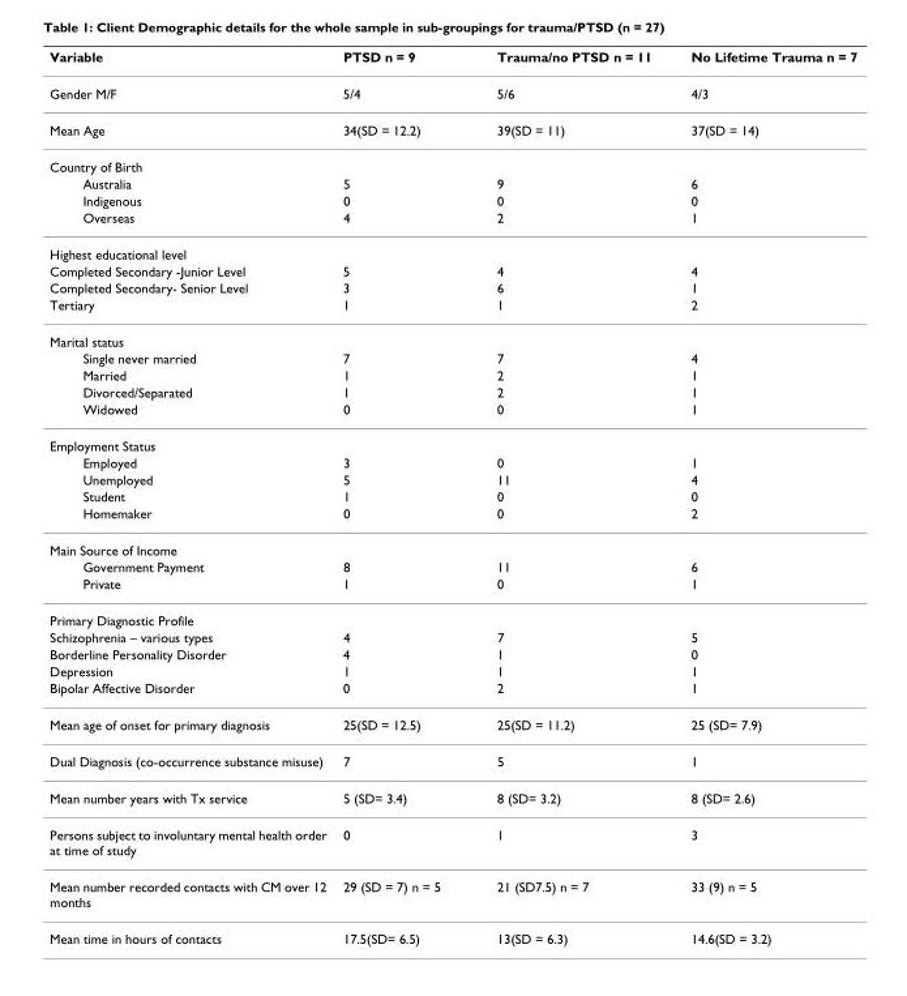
<table><thead><tr><td>Variable</td><td>PTSD n = 9</td><td>Trauma/no PTSD n = 11</td><td>No Lifetime Trauma n = 7</td></tr></thead><tbody><tr><td>Gender M/F</td><td>5/4</td><td>5/6</td><td>4/3</td></tr><tr><td>Mean Age</td><td>34(SD = 12.2)</td><td>39(SD = 11)</td><td>37(SD = 14)</td></tr><tr><td colspan="4">Country of Birth</td></tr><tr><td>Australia</td><td>5</td><td>9</td><td>6</td></tr><tr><td>Indigenous</td><td>0</td><td>0</td><td>0</td></tr><tr><td>Overseas</td><td>4</td><td>2</td><td>1</td></tr><tr><td colspan="4">Highest educational level</td></tr><tr><td>Completed Secondary -Junior Level</td><td>5</td><td>4</td><td>4</td></tr><tr><td>Completed Secondary- Senior Level</td><td>3</td><td>6</td><td>1</td></tr><tr><td>Tertiary</td><td>1</td><td>1</td><td>2</td></tr><tr><td colspan="4">Marital status</td></tr><tr><td>Single never married</td><td>7</td><td>7</td><td>4</td></tr><tr><td>Married</td><td>1</td><td>2</td><td>1</td></tr><tr><td>Divorced/Separated</td><td>1</td><td>2</td><td>1</td></tr><tr><td>Widowed</td><td>0</td><td>0</td><td>1</td></tr><tr><td colspan="4">Employment Status</td></tr><tr><td>Employed</td><td>3</td><td>0</td><td>1</td></tr><tr><td>Unemployed</td><td>5</td><td>11</td><td>4</td></tr><tr><td>Student</td><td>1</td><td>0</td><td>0</td></tr><tr><td>Homemaker</td><td>0</td><td>0</td><td>2</td></tr><tr><td colspan="4">Main Source of Income</td></tr><tr><td>Government Payment</td><td>8</td><td>11</td><td>6</td></tr><tr><td>Private</td><td>1</td><td>0</td><td>1</td></tr><tr><td colspan="4">Primary Diagnostic Profile</td></tr><tr><td>Schizophrenia – various types</td><td>4</td><td>7</td><td>5</td></tr><tr><td>Borderline Personality Disorder</td><td>4</td><td>1</td><td>0</td></tr><tr><td>Depression</td><td>1</td><td>1</td><td>1</td></tr><tr><td>Bipolar Affective Disorder</td><td>0</td><td>2</td><td>1</td></tr><tr><td>Mean age of onset for primary diagnosis</td><td>25(SD = 12.5)</td><td>25(SD = 11.2)</td><td>25 (SD= 7.9)</td></tr><tr><td>Dual Diagnosis (co-occurrence substance misuse)</td><td>7</td><td>5</td><td>1</td></tr><tr><td>Mean number years with Tx service</td><td>5 (SD= 3.4)</td><td>8 (SD= 3.2)</td><td>8 (SD= 2.6)</td></tr><tr><td>Persons subject to involuntary mental health order at time of study</td><td>0</td><td>1</td><td>3</td></tr><tr><td>Mean number recorded contacts with CM over 12 months</td><td>29 (SD = 7) n = 5</td><td>21 (SD7.5) n = 7</td><td>33 (9) n = 5</td></tr><tr><td>Mean time in hours of contacts</td><td>17.5(SD= 6.5)</td><td>13(SD = 6.3)</td><td>14.6(SD = 3.2)</td></tr></tbody></table>